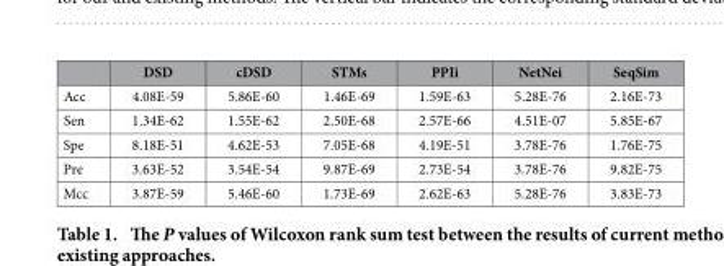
<table><thead><tr><td></td><td>DSD</td><td>cDSD</td><td>STMs</td><td>PPIi</td><td>NetNei</td><td>SeqSim</td></tr></thead><tbody><tr><td>Acc</td><td>4.08E-59</td><td>5.86E-60</td><td>1.46E-69</td><td>1.59E-63</td><td>5.28E-76</td><td>2.16E-73</td></tr><tr><td>Sen</td><td>1.34E-62</td><td>1.55E-62</td><td>2.50E-68</td><td>2.57E-66</td><td>4.51E-07</td><td>5.85E-67</td></tr><tr><td>Spe</td><td>8.18E-51</td><td>4.62E-53</td><td>7.05E-68</td><td>4.19E-51</td><td>3.78E-76</td><td>1.76E-75</td></tr><tr><td>Pre</td><td>3.63E-52</td><td>3.54E-54</td><td>9.87E-69</td><td>2.73E-54</td><td>3.78E-76</td><td>9.82E-75</td></tr><tr><td>Mcc</td><td>3.87E-59</td><td>5.46E-60</td><td>1.73E-69</td><td>2.62E-63</td><td>5.28E-76</td><td>3.83E-73</td></tr></tbody></table>